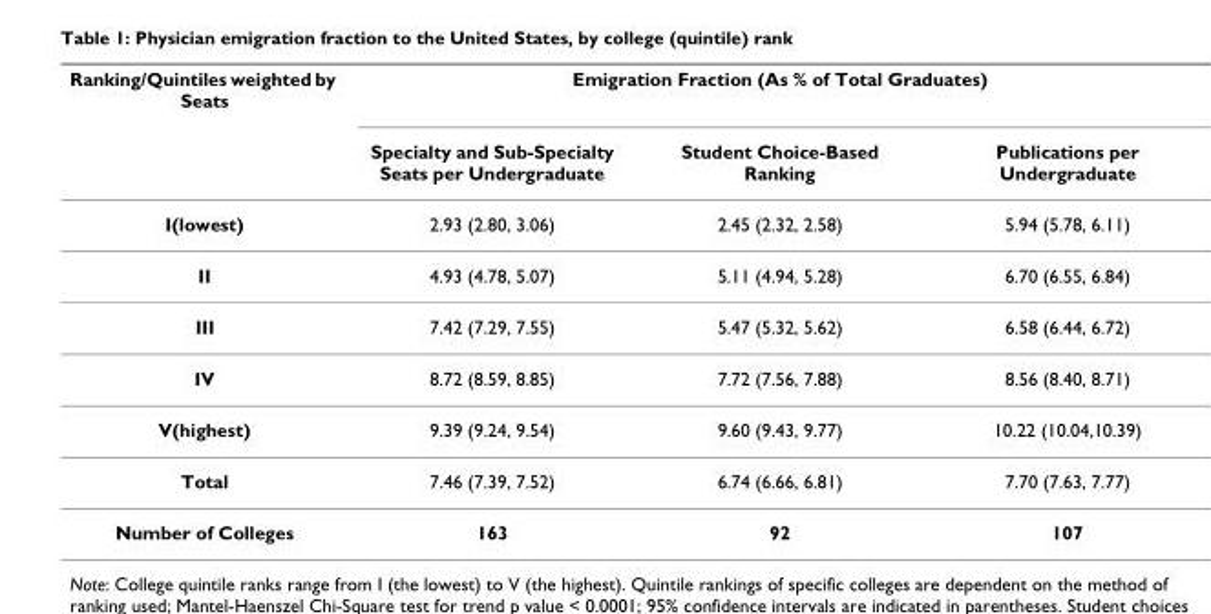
<table><thead><tr><td rowspan="2">Ranking/Quintiles weighted by Seats</td><td colspan="3">Emigration Fraction (As % of Total Graduates)</td></tr><tr><td>Specialty and Sub-Specialty Seats per Undergraduate</td><td>Student Choice-Based Ranking</td><td>Publications per Undergraduate</td></tr></thead><tbody><tr><td>I(lowest)</td><td>2.93 (2.80, 3.06)</td><td>2.45 (2.32, 2.58)</td><td>5.94 (5.78, 6.11)</td></tr><tr><td>II</td><td>4.93 (4.78, 5.07)</td><td>5.11 (4.94, 5.28)</td><td>6.70 (6.55, 6.84)</td></tr><tr><td>III</td><td>7.42 (7.29, 7.55)</td><td>5.47 (5.32, 5.62)</td><td>6.58 (6.44, 6.72)</td></tr><tr><td>IV</td><td>8.72 (8.59, 8.85)</td><td>7.72 (7.56, 7.88)</td><td>8.56 (8.40, 8.71)</td></tr><tr><td>V(highest)</td><td>9.39 (9.24, 9.54)</td><td>9.60 (9.43, 9.77)</td><td>10.22 (10.04,10.39)</td></tr><tr><td>Total</td><td>7.46 (7.39, 7.52)</td><td>6.74 (6.66, 6.81)</td><td>7.70 (7.63, 7.77)</td></tr><tr><td>Number of Colleges</td><td>163</td><td>92</td><td>107</td></tr></tbody></table>